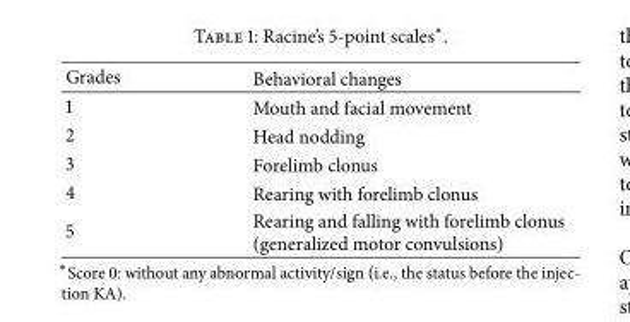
<table><thead><tr><td>Grades</td><td>Behavioral changes</td></tr></thead><tbody><tr><td>1</td><td>Mouth and facial movement</td></tr><tr><td>2</td><td>Head nodding</td></tr><tr><td>3</td><td>Forelimb clonus</td></tr><tr><td>4</td><td>Rearing with forelimb clonus</td></tr><tr><td>5</td><td>Rearing and falling with forelimb clonus (generalized motor convulsions)</td></tr></tbody></table>